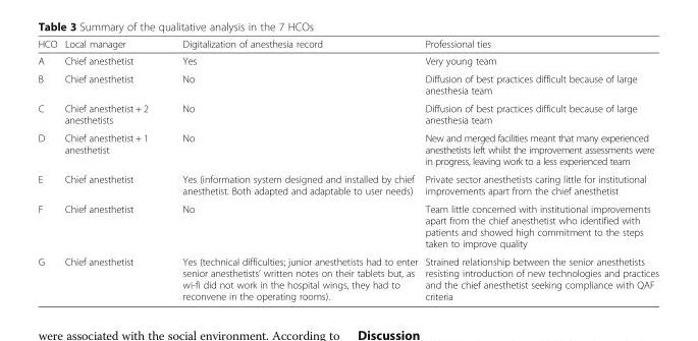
<table><thead><tr><td>HCO</td><td>Local manager</td><td>Digitalization of anesthesia record</td><td>Professional ties</td></tr></thead><tbody><tr><td>A</td><td>Chief anesthetist</td><td>Yes</td><td>Very young team</td></tr><tr><td>B</td><td>Chief anesthetist</td><td>No</td><td>Diffusion of best practices difficult because of large anesthesia team</td></tr><tr><td>C</td><td>Chief anesthetist + 2 anesthetists</td><td>No</td><td>Diffusion of best practices difficult because of large anesthesia team</td></tr><tr><td>D</td><td>Chief anesthetist + 1 anesthetist</td><td>No</td><td>New and merged facilities meant that many experienced anesthetists left whilst the improvement assessments were in progress, leaving work to a less experienced team</td></tr><tr><td>E</td><td>Chief anesthetist</td><td>Yes (information system designed and installed by chief anesthetist. Both adapted and adaptable to user needs)</td><td>Private sector anesthetists caring little for institutional improvements apart from the chief anesthetist</td></tr><tr><td>F</td><td>Chief anesthetist</td><td>No</td><td>Team little concerned with institutional improvements apart from the chief anesthetist who identified with patients and showed high commitment to the steps taken to improve quality</td></tr><tr><td>G</td><td>Chief anesthetist</td><td>Yes (technical difficulties; junior anesthetists had to enter senior anesthetists’ written notes on their tablets but, as wi-fi did not work in the hospital wings, they had to reconvene in the operating rooms).</td><td>Strained relationship between the senior anesthetists resisting introduction of new technologies and practices and the chief anesthetist seeking compliance with QAF criteria</td></tr></tbody></table>